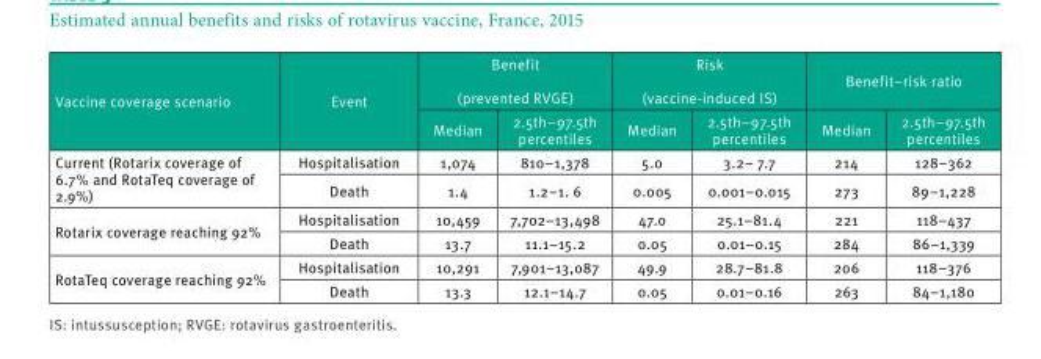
<table><thead><tr><td rowspan="2">Vaccine coverage scenario</td><td rowspan="2">Event</td><td colspan="2">Benefit (prevented RVGE)</td><td colspan="2">Risk (vaccine-induced IS)</td><td colspan="2">Benefit–risk ratio</td></tr><tr><td>Median</td><td>2.5th–97.5th percentiles</td><td>Median</td><td>2.5th–97.5th percentiles</td><td>Median</td><td>2.5th–97.5th percentiles</td></tr></thead><tbody><tr><td rowspan="2">Current (Rotarix coverage of 6.7% and RotaTeq coverage of 2.9%)</td><td>Hospitalisation</td><td>1,074</td><td>810–1,378</td><td>5.0</td><td>3.2– 7.7</td><td>214</td><td>128–362</td></tr><tr><td>Death</td><td>1.4</td><td>1.2–1. 6</td><td>0.005</td><td>0.001–0.015</td><td>273</td><td>89–1,228</td></tr><tr><td rowspan="2">Rotarix coverage reaching 92%</td><td>Hospitalisation</td><td>10,459</td><td>7,702–13,498</td><td>47.0</td><td>25.1–81.4</td><td>221</td><td>118–437</td></tr><tr><td>Death</td><td>13.7</td><td>11.1–15.2</td><td>0.05</td><td>0.01–0.15</td><td>284</td><td>86–1,339</td></tr><tr><td rowspan="2">RotaTeq coverage reaching 92%</td><td>Hospitalisation</td><td>10,291</td><td>7,901–13,087</td><td>49.9</td><td>28.7–81.8</td><td>206</td><td>118–376</td></tr><tr><td>Death</td><td>13.3</td><td>12.1–14.7</td><td>0.05</td><td>0.01–0.16</td><td>263</td><td>84–1,180</td></tr></tbody></table>